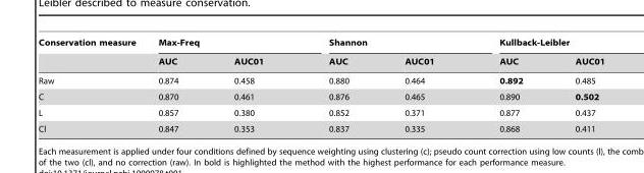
<table><thead><tr><td rowspan="2">Conservation measure</td><td colspan="2">Max-Freq</td><td colspan="2">Shannon</td><td colspan="2">Kullback-Leibler</td></tr><tr><td>AUC</td><td>AUC01</td><td>AUC</td><td>AUC01</td><td>AUC</td><td>AUC01</td></tr></thead><tbody><tr><td>Raw</td><td>0.874</td><td>0.458</td><td>0.880</td><td>0.464</td><td>0.892</td><td>0.485</td></tr><tr><td>C</td><td>0.870</td><td>0.461</td><td>0.876</td><td>0.465</td><td>0.890</td><td>0.502</td></tr><tr><td>L</td><td>0.857</td><td>0.380</td><td>0.852</td><td>0.371</td><td>0.877</td><td>0.437</td></tr><tr><td>Cl</td><td>0.847</td><td>0.353</td><td>0.837</td><td>0.335</td><td>0.868</td><td>0.411</td></tr></tbody></table>